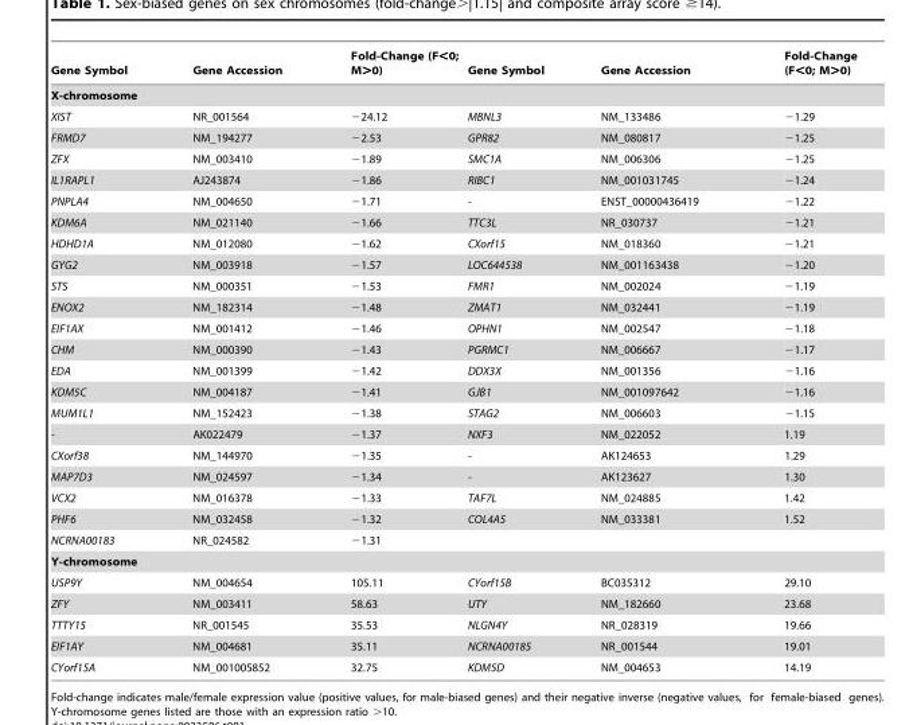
<table><thead><tr><td>Gene Symbol</td><td>Gene Accession</td><td>Fold-Change (F&lt;0; M&gt;0)</td><td>Gene Symbol</td><td>Gene Accession</td><td>Fold-Change (F&lt;0; M&gt;0)</td></tr></thead><tbody><tr><td colspan="6">X-chromosome</td></tr><tr><td>XIST</td><td>NR_001564</td><td>−24.12</td><td>MBNL3</td><td>NM_133486</td><td>−1.29</td></tr><tr><td>FRMD7</td><td>NM_194277</td><td>−2.53</td><td>GPR82</td><td>NM_080817</td><td>−1.25</td></tr><tr><td>ZFX</td><td>NM_003410</td><td>−1.89</td><td>SMC1A</td><td>NM_006306</td><td>−1.25</td></tr><tr><td>IL1RAPL1</td><td>AJ243874</td><td>−1.86</td><td>RIBC1</td><td>NM_001031745</td><td>−1.24</td></tr><tr><td>PNPLA4</td><td>NM_004650</td><td>−1.71</td><td>-</td><td>ENST_00000436419</td><td>−1.22</td></tr><tr><td>KDM6A</td><td>NM_021140</td><td>−1.66</td><td>TTC3L</td><td>NR_030737</td><td>−1.21</td></tr><tr><td>HDHD1A</td><td>NM_012080</td><td>−1.62</td><td>CXorf15</td><td>NM_018360</td><td>−1.21</td></tr><tr><td>GYG2</td><td>NM_003918</td><td>−1.57</td><td>LOC644538</td><td>NM_001163438</td><td>−1.20</td></tr><tr><td>STS</td><td>NM_000351</td><td>−1.53</td><td>FMR1</td><td>NM_002024</td><td>−1.19</td></tr><tr><td>ENOX2</td><td>NM_182314</td><td>−1.48</td><td>ZMAT1</td><td>NM_032441</td><td>−1.19</td></tr><tr><td>EIF1AX</td><td>NM_001412</td><td>−1.46</td><td>OPHN1</td><td>NM_002547</td><td>−1.18</td></tr><tr><td>CHM</td><td>NM_000390</td><td>−1.43</td><td>PGRMC1</td><td>NM_006667</td><td>−1.17</td></tr><tr><td>EDA</td><td>NM_001399</td><td>−1.42</td><td>DDX3X</td><td>NM_001356</td><td>−1.16</td></tr><tr><td>KDM5C</td><td>NM_004187</td><td>−1.41</td><td>GJB1</td><td>NM_001097642</td><td>−1.16</td></tr><tr><td>MUM1L1</td><td>NM_152423</td><td>−1.38</td><td>STAG2</td><td>NM_006603</td><td>−1.15</td></tr><tr><td>-</td><td>AK022479</td><td>−1.37</td><td>NXF3</td><td>NM_022052</td><td>1.19</td></tr><tr><td>CXorf38</td><td>NM_144970</td><td>−1.35</td><td>-</td><td>AK124653</td><td>1.29</td></tr><tr><td>MAP7D3</td><td>NM_024597</td><td>−1.34</td><td>-</td><td>AK123627</td><td>1.30</td></tr><tr><td>VCX2</td><td>NM_016378</td><td>−1.33</td><td>TAF7L</td><td>NM_024885</td><td>1.42</td></tr><tr><td>PHF6</td><td>NM_032458</td><td>−1.32</td><td>COL4A5</td><td>NM_033381</td><td>1.52</td></tr><tr><td>NCRNA00183</td><td>NR_024582</td><td>−1.31</td><td></td><td></td><td></td></tr><tr><td colspan="6">Y-chromosome</td></tr><tr><td>USP9Y</td><td>NM_004654</td><td>105.11</td><td>CYorf15B</td><td>BC035312</td><td>29.10</td></tr><tr><td>ZFY</td><td>NM_003411</td><td>58.63</td><td>UTY</td><td>NM_182660</td><td>23.68</td></tr><tr><td>TTTY15</td><td>NR_001545</td><td>35.53</td><td>NLGN4Y</td><td>NR_028319</td><td>19.66</td></tr><tr><td>EIF1AY</td><td>NM_004681</td><td>35.11</td><td>NCRNA00185</td><td>NR_001544</td><td>19.01</td></tr><tr><td>CYorf15A</td><td>NM_001005852</td><td>32.75</td><td>KDM5D</td><td>NM_004653</td><td>14.19</td></tr></tbody></table>